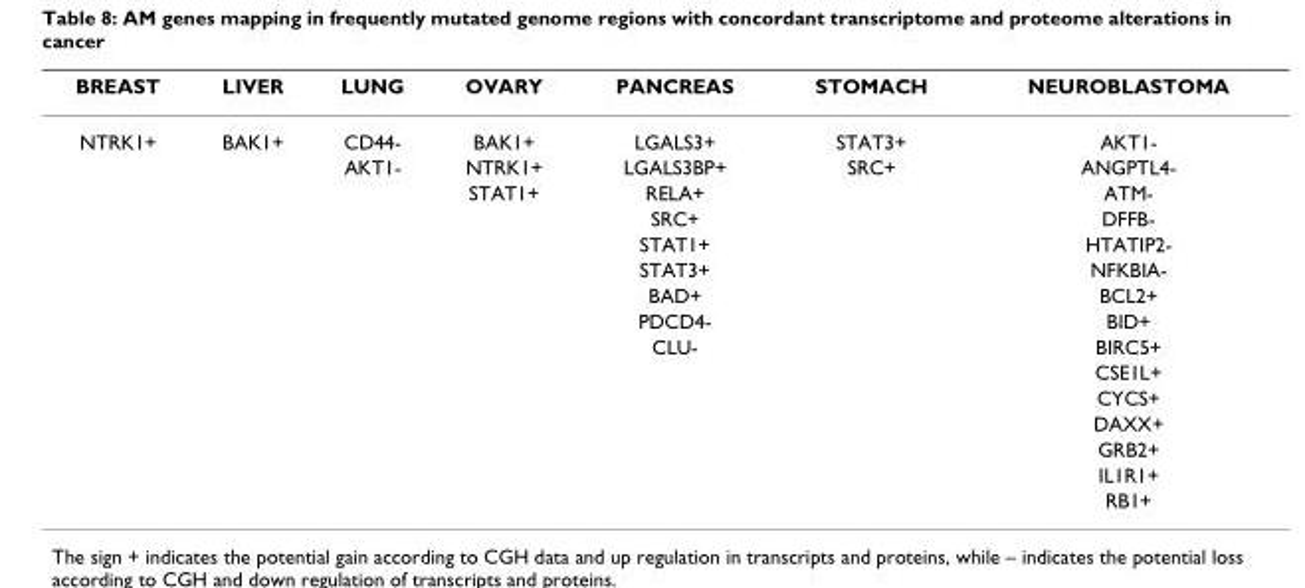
<table><thead><tr><td>BREAST</td><td>LIVER</td><td>LUNG</td><td>OVARY</td><td>PANCREAS</td><td>STOMACH</td><td>NEUROBLASTOMA</td></tr></thead><tbody><tr><td rowspan="15">NTRK1+</td><td>BAK1+</td><td>CD44-</td><td>BAK1+</td><td>LGALS3+</td><td>STAT3+</td><td>AKT1-</td></tr><tr><td></td><td>AKT1-</td><td>NTRK1+</td><td>LGALS3BP+</td><td>SRC+</td><td>ANGPTL4-</td></tr><tr><td></td><td></td><td>STAT1+</td><td>RELA+</td><td></td><td>ATM-</td></tr><tr><td></td><td></td><td></td><td>SRC+</td><td></td><td>DFFB-</td></tr><tr><td></td><td></td><td></td><td>STAT1+</td><td></td><td>HTATIP2-</td></tr><tr><td></td><td></td><td></td><td>STAT3+</td><td></td><td>NFKBIA-</td></tr><tr><td></td><td></td><td></td><td>BAD+</td><td></td><td>BCL2+</td></tr><tr><td></td><td></td><td></td><td>PDCD4-</td><td></td><td>BID+</td></tr><tr><td></td><td></td><td></td><td>CLU-</td><td></td><td>BIRC5+</td></tr><tr><td></td><td></td><td></td><td></td><td></td><td>CSE1L+</td></tr><tr><td></td><td></td><td></td><td></td><td></td><td>CYCS+</td></tr><tr><td></td><td></td><td></td><td></td><td></td><td>DAXX+</td></tr><tr><td></td><td></td><td></td><td></td><td></td><td>GRB2+</td></tr><tr><td></td><td></td><td></td><td></td><td></td><td>IL1R1+</td></tr><tr><td></td><td></td><td></td><td></td><td></td><td>RB1+</td></tr></tbody></table>